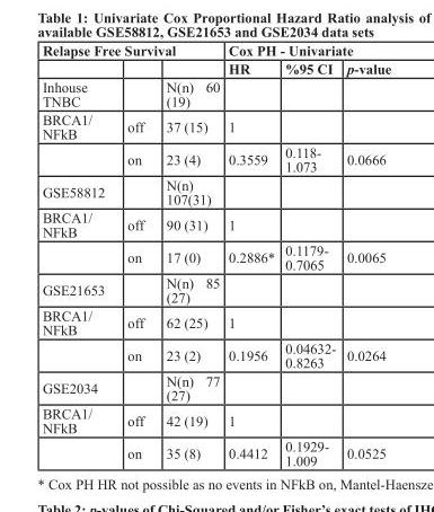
<table><thead><tr><td colspan="3">Relapse Free Survival</td><td colspan="3">Cox PH - Univariate</td></tr><tr><td></td><td></td><td></td><td>HR</td><td>%95 CI</td><td>p-value</td></tr></thead><tbody><tr><td>Inhouse TNBC</td><td></td><td>N(n) 60 (19)</td><td></td><td></td><td></td></tr><tr><td rowspan="2">BRCA1/ NFkB</td><td>off</td><td>37 (15)</td><td>1</td><td></td><td></td></tr><tr><td>on</td><td>23 (4)</td><td>0.3559</td><td>0.118- 1.073</td><td>0.0666</td></tr><tr><td>GSE58812</td><td></td><td>N(n) 107(31)</td><td></td><td></td><td></td></tr><tr><td rowspan="2">BRCA1/ NFkB</td><td>off</td><td>90 (31)</td><td>1</td><td></td><td></td></tr><tr><td>on</td><td>17 (0)</td><td>0.2886*</td><td>0.1179- 0.7065</td><td>0.0065</td></tr><tr><td>GSE21653</td><td></td><td>N(n) 85 (27)</td><td></td><td></td><td></td></tr><tr><td rowspan="2">BRCA1/ NFkB</td><td>off</td><td>62 (25)</td><td>1</td><td></td><td></td></tr><tr><td>on</td><td>23 (2)</td><td>0.1956</td><td>0.04632- 0.8263</td><td>0.0264</td></tr><tr><td>GSE2034</td><td></td><td>N(n) 77 (27)</td><td></td><td></td><td></td></tr><tr><td rowspan="2">BRCA1/ NFkB</td><td>off</td><td>42 (19)</td><td>1</td><td></td><td></td></tr><tr><td>on</td><td>35 (8)</td><td>0.4412</td><td>0.1929- 1.009</td><td>0.0525</td></tr></tbody></table>